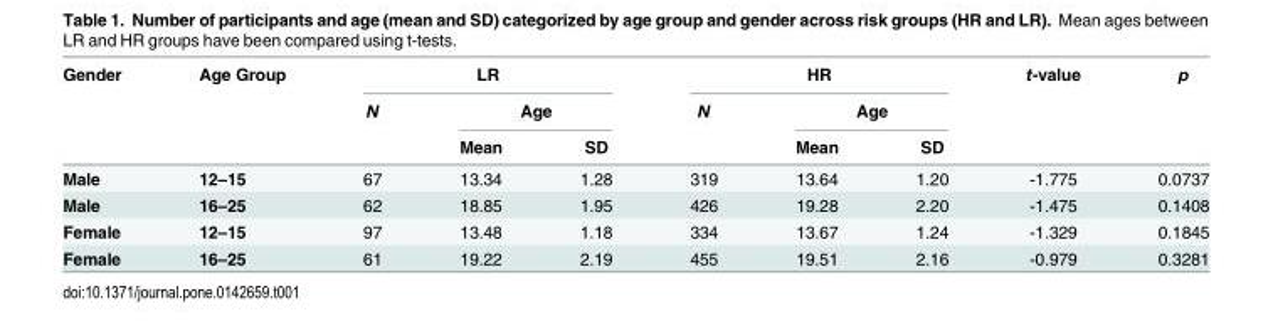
<table><thead><tr><td rowspan="3">Gender</td><td rowspan="3">Age Group</td><td colspan="3">LR</td><td colspan="3">HR</td><td rowspan="3">t-value</td><td rowspan="3">p</td></tr><tr><td rowspan="2">N</td><td colspan="2">Age</td><td rowspan="2">N</td><td colspan="2">Age</td></tr><tr><td>Mean</td><td>SD</td><td>Mean</td><td>SD</td></tr></thead><tbody><tr><td>Male</td><td>12–15</td><td>67</td><td>13.34</td><td>1.28</td><td>319</td><td>13.64</td><td>1.20</td><td>-1.775</td><td>0.0737</td></tr><tr><td>Male</td><td>16–25</td><td>62</td><td>18.85</td><td>1.95</td><td>426</td><td>19.28</td><td>2.20</td><td>-1.475</td><td>0.1408</td></tr><tr><td>Female</td><td>12–15</td><td>97</td><td>13.48</td><td>1.18</td><td>334</td><td>13.67</td><td>1.24</td><td>-1.329</td><td>0.1845</td></tr><tr><td>Female</td><td>16–25</td><td>61</td><td>19.22</td><td>2.19</td><td>455</td><td>19.51</td><td>2.16</td><td>-0.979</td><td>0.3281</td></tr></tbody></table>